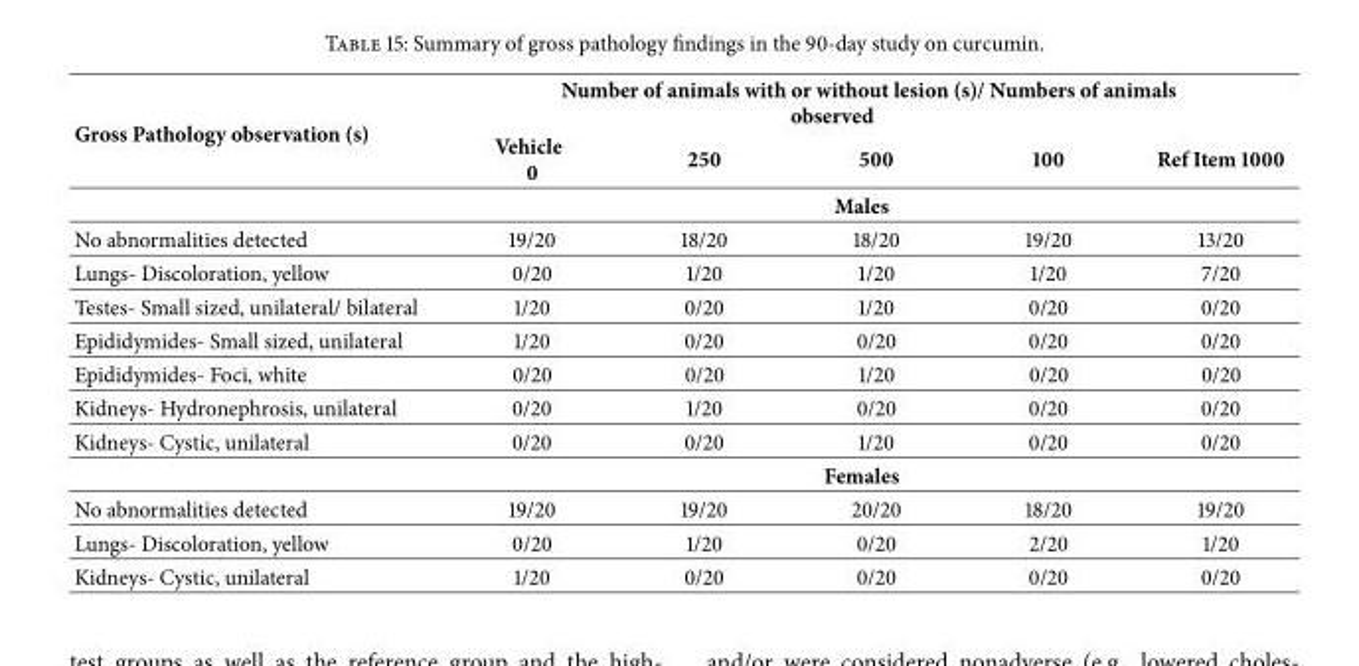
<table><thead><tr><td rowspan="2">Gross Pathology observation (s)</td><td colspan="5">Number of animals with or without lesion (s)/ Numbers of animals observed</td></tr><tr><td>Vehicle 0</td><td>250</td><td>500</td><td>100</td><td>Ref Item 1000</td></tr></thead><tbody><tr><td colspan="6">Males</td></tr><tr><td>No abnormalities detected</td><td>19/20</td><td>18/20</td><td>18/20</td><td>19/20</td><td>13/20</td></tr><tr><td>Lungs- Discoloration, yellow</td><td>0/20</td><td>1/20</td><td>1/20</td><td>1/20</td><td>7/20</td></tr><tr><td>Testes- Small sized, unilateral/ bilateral</td><td>1/20</td><td>0/20</td><td>1/20</td><td>0/20</td><td>0/20</td></tr><tr><td>Epididymides- Small sized, unilateral</td><td>1/20</td><td>0/20</td><td>0/20</td><td>0/20</td><td>0/20</td></tr><tr><td>Epididymides- Foci, white</td><td>0/20</td><td>0/20</td><td>1/20</td><td>0/20</td><td>0/20</td></tr><tr><td>Kidneys- Hydronephrosis, unilateral</td><td>0/20</td><td>1/20</td><td>0/20</td><td>0/20</td><td>0/20</td></tr><tr><td>Kidneys- Cystic, unilateral</td><td>0/20</td><td>0/20</td><td>1/20</td><td>0/20</td><td>0/20</td></tr><tr><td colspan="6">Females</td></tr><tr><td>No abnormalities detected</td><td>19/20</td><td>19/20</td><td>20/20</td><td>18/20</td><td>19/20</td></tr><tr><td>Lungs- Discoloration, yellow</td><td>0/20</td><td>1/20</td><td>0/20</td><td>2/20</td><td>1/20</td></tr><tr><td>Kidneys- Cystic, unilateral</td><td>1/20</td><td>0/20</td><td>0/20</td><td>0/20</td><td>0/20</td></tr></tbody></table>